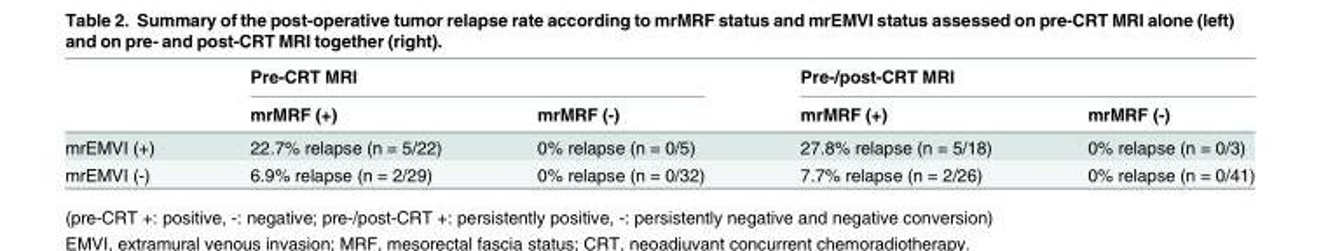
<table><thead><tr><td rowspan="2"></td><td colspan="2">Pre-CRT MRI</td><td colspan="2">Pre-/post-CRT MRI</td></tr><tr><td>mrMRF (+)</td><td>mrMRF (-)</td><td>mrMRF (+)</td><td>mrMRF (-)</td></tr></thead><tbody><tr><td>mrEMVI (+)</td><td>22.7% relapse (n = 5/22)</td><td>0% relapse (n = 0/5)</td><td>27.8% relapse (n = 5/18)</td><td>0% relapse (n = 0/3)</td></tr><tr><td>mrEMVI (-)</td><td>6.9% relapse (n = 2/29)</td><td>0% relapse (n = 0/32)</td><td>7.7% relapse (n = 2/26)</td><td>0% relapse (n = 0/41)</td></tr></tbody></table>